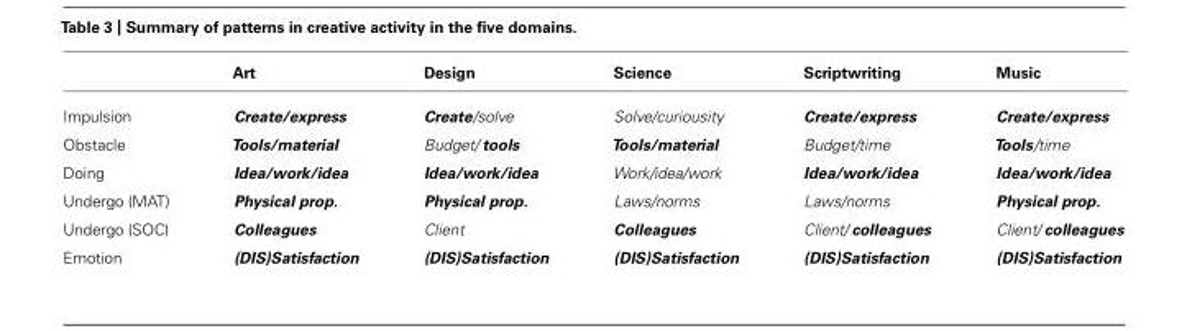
<table><thead><tr><td></td><td>Art</td><td>Design</td><td>Science</td><td>Scriptwriting</td><td>Music</td></tr></thead><tbody><tr><td>Impulsion</td><td>Create/express</td><td>Create/solve</td><td>Solve/curiousity</td><td>Create/express</td><td>Create/express</td></tr><tr><td>Obstacle</td><td>Tools/material</td><td>Budget/ tools</td><td>Tools/material</td><td>Budget/time</td><td>Tools/time</td></tr><tr><td>Doing</td><td>Idea/work/idea</td><td>Idea/work/idea</td><td>Work/idea/work</td><td>Idea/work/idea</td><td>Idea/work/idea</td></tr><tr><td>Undergo (MAT)</td><td>Physical prop.</td><td>Physical prop.</td><td>Laws/norms</td><td>Laws/norms</td><td>Physical prop.</td></tr><tr><td>Undergo (SOC)</td><td>Colleagues</td><td>Client</td><td>Colleagues</td><td>Client/ colleagues</td><td>Client/ colleagues</td></tr><tr><td>Emotion</td><td>(DIS)Satisfaction</td><td>(DIS)Satisfaction</td><td>(DIS)Satisfaction</td><td>(DIS)Satisfaction</td><td>(DIS)Satisfaction</td></tr></tbody></table>